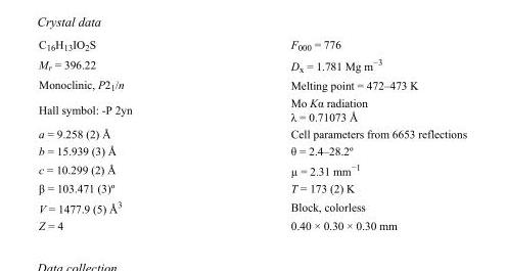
<table><tbody><tr><td>C<sub>16</sub>H<sub>13</sub>IO<sub>2</sub>S</td><td>F<sub>000</sub> = 776</td></tr><tr><td>M<sub>r</sub> = 396.22</td><td>D<sub>x</sub> = 1.781 Mg m<sup>−3</sup></td></tr><tr><td>Monoclinic, P2<sub>1</sub>/n</td><td>Melting point = 472–473 K</td></tr><tr><td>Hall symbol: -P 2yn</td><td>Mo Kα radiation λ = 0.71073 Å</td></tr><tr><td>a = 9.258 (2) Å</td><td>Cell parameters from 6653 reflections</td></tr><tr><td>b = 15.939 (3) Å</td><td>θ = 2.4–28.2º</td></tr><tr><td>c = 10.299 (2) Å</td><td>µ = 2.31 mm<sup>−1</sup></td></tr><tr><td>β = 103.471 (3)º</td><td>T = 173 (2) K</td></tr><tr><td>V = 1477.9 (5) Å<sup>3</sup></td><td>Block, colorless</td></tr><tr><td>Z = 4</td><td>0.40 × 0.30 × 0.30 mm</td></tr></tbody></table>